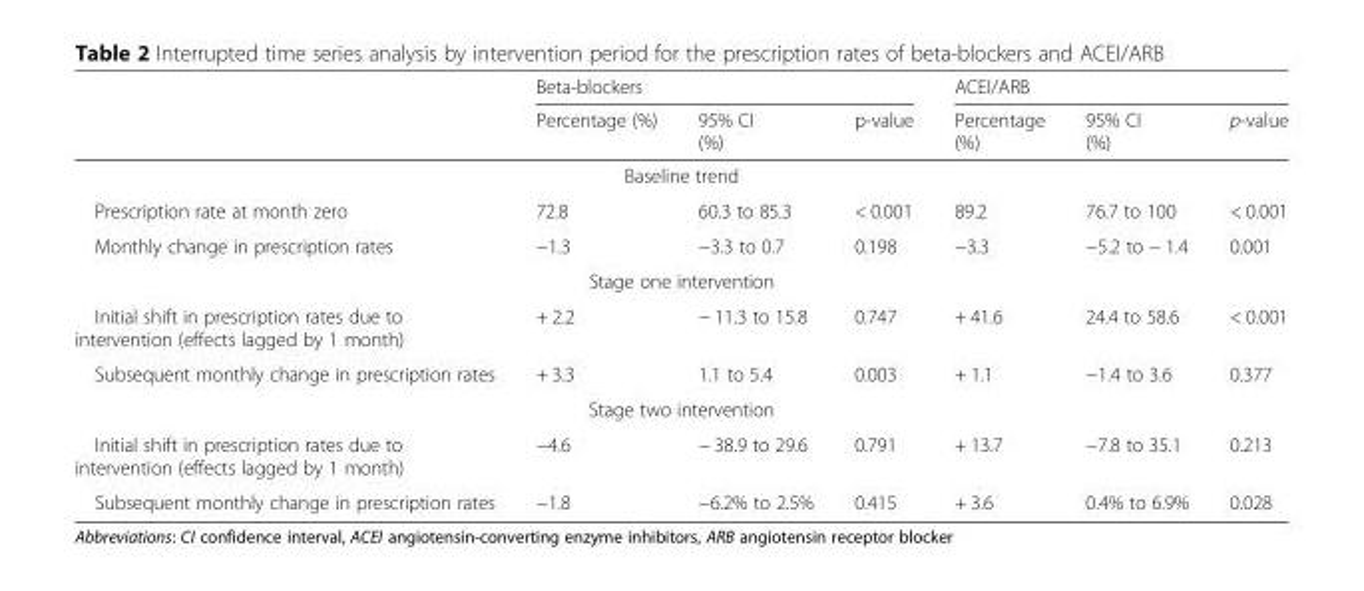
<table><thead><tr><td rowspan="2"></td><td colspan="3">Beta-blockers</td><td colspan="3">ACEI/ARB</td></tr><tr><td>Percentage (%)</td><td>95% CI (%)</td><td>p-value</td><td>Percentage (%)</td><td>95% CI (%)</td><td>p-value</td></tr></thead><tbody><tr><td colspan="7">Baseline trend</td></tr><tr><td>Prescription rate at month zero</td><td>72.8</td><td>60.3 to 85.3</td><td>&lt; 0.001</td><td>89.2</td><td>76.7 to 100</td><td>&lt; 0.001</td></tr><tr><td>Monthly change in prescription rates</td><td>−1.3</td><td>−3.3 to 0.7</td><td>0.198</td><td>−3.3</td><td>−5.2 to − 1.4</td><td>0.001</td></tr><tr><td colspan="7">Stage one intervention</td></tr><tr><td>Initial shift in prescription rates due to intervention (effects lagged by 1 month)</td><td>+ 2.2</td><td>− 11.3 to 15.8</td><td>0.747</td><td>+ 41.6</td><td>24.4 to 58.6</td><td>&lt; 0.001</td></tr><tr><td>Subsequent monthly change in prescription rates</td><td>+ 3.3</td><td>1.1 to 5.4</td><td>0.003</td><td>+ 1.1</td><td>−1.4 to 3.6</td><td>0.377</td></tr><tr><td colspan="7">Stage two intervention</td></tr><tr><td>Initial shift in prescription rates due to intervention (effects lagged by 1 month)</td><td>−4.6</td><td>− 38.9 to 29.6</td><td>0.791</td><td>+ 13.7</td><td>−7.8 to 35.1</td><td>0.213</td></tr><tr><td>Subsequent monthly change in prescription rates</td><td>−1.8</td><td>−6.2% to 2.5%</td><td>0.415</td><td>+ 3.6</td><td>0.4% to 6.9%</td><td>0.028</td></tr></tbody></table>